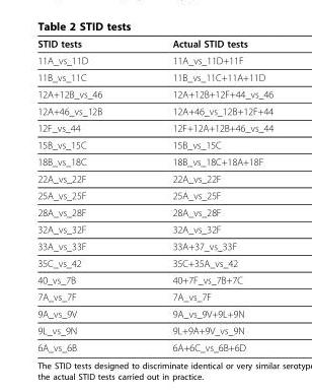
<table><thead><tr><td>STID tests</td><td>Actual STID tests</td></tr></thead><tbody><tr><td>11A_vs_11D</td><td>11A_vs_11D+11F</td></tr><tr><td>11B_vs_11C</td><td>11B_vs_11C+11A+11D</td></tr><tr><td>12A+12B_vs_46</td><td>12A+12B+12F+44_vs_46</td></tr><tr><td>12A+46_vs_12B</td><td>12A+46_vs_12B+12F+44</td></tr><tr><td>12F_vs_44</td><td>12F+12A+12B+46_vs_44</td></tr><tr><td>15B_vs_15C</td><td>15B_vs_15C</td></tr><tr><td>18B_vs_18C</td><td>18B_vs_18C+18A+18F</td></tr><tr><td>22A_vs_22F</td><td>22A_vs_22F</td></tr><tr><td>25A_vs_25F</td><td>25A_vs_25F</td></tr><tr><td>28A_vs_28F</td><td>28A_vs_28F</td></tr><tr><td>32A_vs_32F</td><td>32A_vs_32F</td></tr><tr><td>33A_vs_33F</td><td>33A+37_vs_33F</td></tr><tr><td>35C_vs_42</td><td>35C+35A_vs_42</td></tr><tr><td>40_vs_7B</td><td>40+7F_vs_7B+7C</td></tr><tr><td>7A_vs_7F</td><td>7A_vs_7F</td></tr><tr><td>9A_vs_9V</td><td>9A_vs_9V+9L+9N</td></tr><tr><td>9L_vs_9N</td><td>9L+9A+9V_vs_9N</td></tr><tr><td>6A_vs_6B</td><td>6A+6C_vs_6B+6D</td></tr></tbody></table>